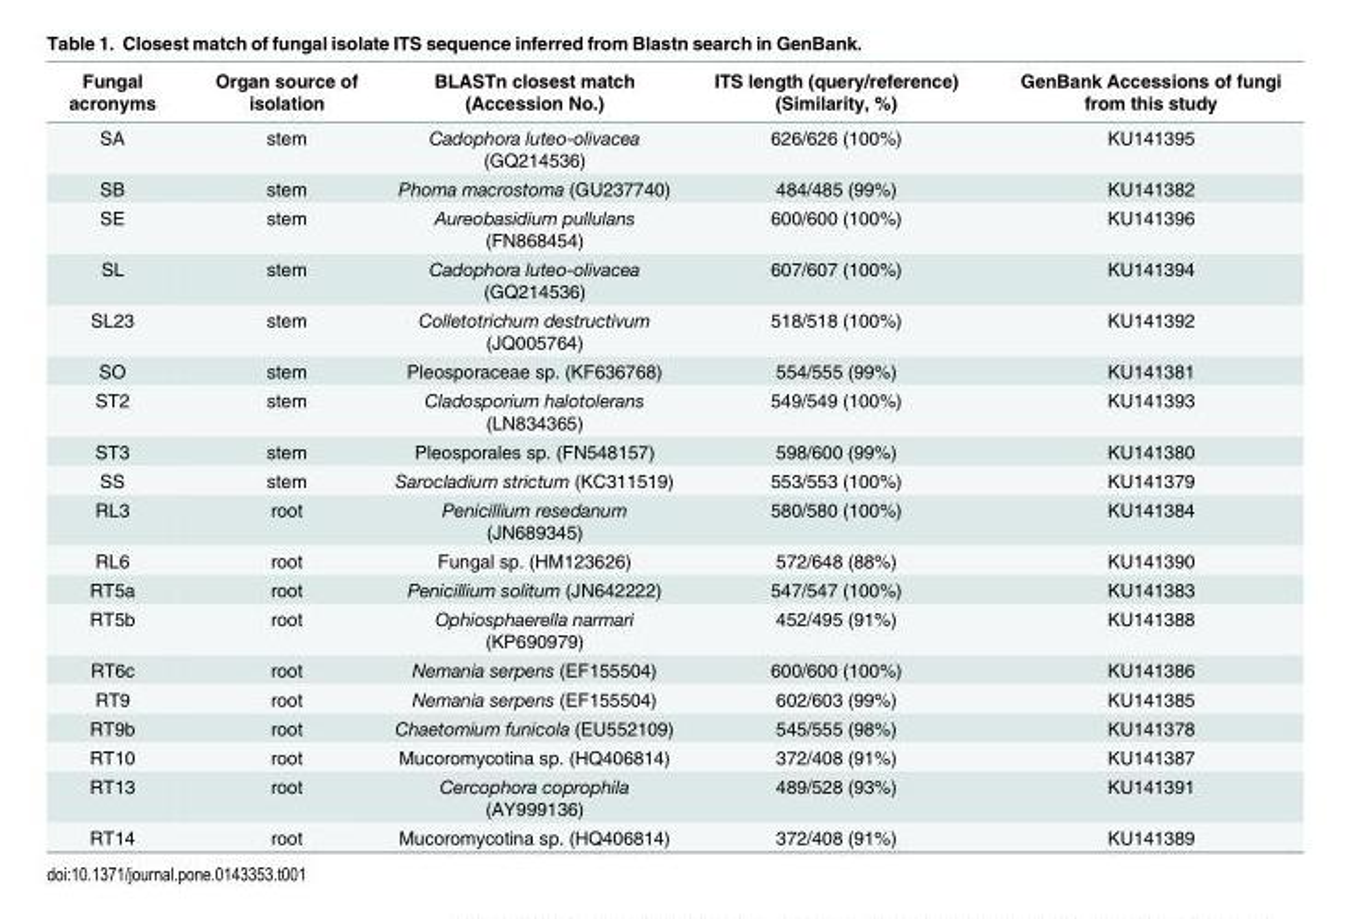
<table><thead><tr><td>Fungal acronyms</td><td>Organ source of isolation</td><td>BLASTn closest match (Accession No.)</td><td>ITS length (query/reference) (Similarity, %)</td><td>GenBank Accessions of fungi from this study</td></tr></thead><tbody><tr><td>SA</td><td>stem</td><td>Cadophora luteo-olivacea (GQ214536)</td><td>626/626 (100%)</td><td>KU141395</td></tr><tr><td>SB</td><td>stem</td><td>Phoma macrostoma (GU237740)</td><td>484/485 (99%)</td><td>KU141382</td></tr><tr><td>SE</td><td>stem</td><td>Aureobasidium pullulans (FN868454)</td><td>600/600 (100%)</td><td>KU141396</td></tr><tr><td>SL</td><td>stem</td><td>Cadophora luteo-olivacea (GQ214536)</td><td>607/607 (100%)</td><td>KU141394</td></tr><tr><td>SL23</td><td>stem</td><td>Colletotrichum destructivum (JQ005764)</td><td>518/518 (100%)</td><td>KU141392</td></tr><tr><td>SO</td><td>stem</td><td>Pleosporaceae sp. (KF636768)</td><td>554/555 (99%)</td><td>KU141381</td></tr><tr><td>ST2</td><td>stem</td><td>Cladosporium halotolerans (LN834365)</td><td>549/549 (100%)</td><td>KU141393</td></tr><tr><td>ST3</td><td>stem</td><td>Pleosporales sp. (FN548157)</td><td>598/600 (99%)</td><td>KU141380</td></tr><tr><td>SS</td><td>stem</td><td>Sarocladium strictum (KC311519)</td><td>553/553 (100%)</td><td>KU141379</td></tr><tr><td>RL3</td><td>root</td><td>Penicillium resedanum (JN689345)</td><td>580/580 (100%)</td><td>KU141384</td></tr><tr><td>RL6</td><td>root</td><td>Fungal sp. (HM123626)</td><td>572/648 (88%)</td><td>KU141390</td></tr><tr><td>RT5a</td><td>root</td><td>Penicillium solitum (JN642222)</td><td>547/547 (100%)</td><td>KU141383</td></tr><tr><td>RT5b</td><td>root</td><td>Ophiosphaerella narmari (KP690979)</td><td>452/495 (91%)</td><td>KU141388</td></tr><tr><td>RT6c</td><td>root</td><td>Nemania serpens (EF155504)</td><td>600/600 (100%)</td><td>KU141386</td></tr><tr><td>RT9</td><td>root</td><td>Nemania serpens (EF155504)</td><td>602/603 (99%)</td><td>KU141385</td></tr><tr><td>RT9b</td><td>root</td><td>Chaetomium funicola (EU552109)</td><td>545/555 (98%)</td><td>KU141378</td></tr><tr><td>RT10</td><td>root</td><td>Mucoromycotina sp. (HQ406814)</td><td>372/408 (91%)</td><td>KU141387</td></tr><tr><td>RT13</td><td>root</td><td>Cercophora coprophila (AY999136)</td><td>489/528 (93%)</td><td>KU141391</td></tr><tr><td>RT14</td><td>root</td><td>Mucoromycotina sp. (HQ406814)</td><td>372/408 (91%)</td><td>KU141389</td></tr></tbody></table>